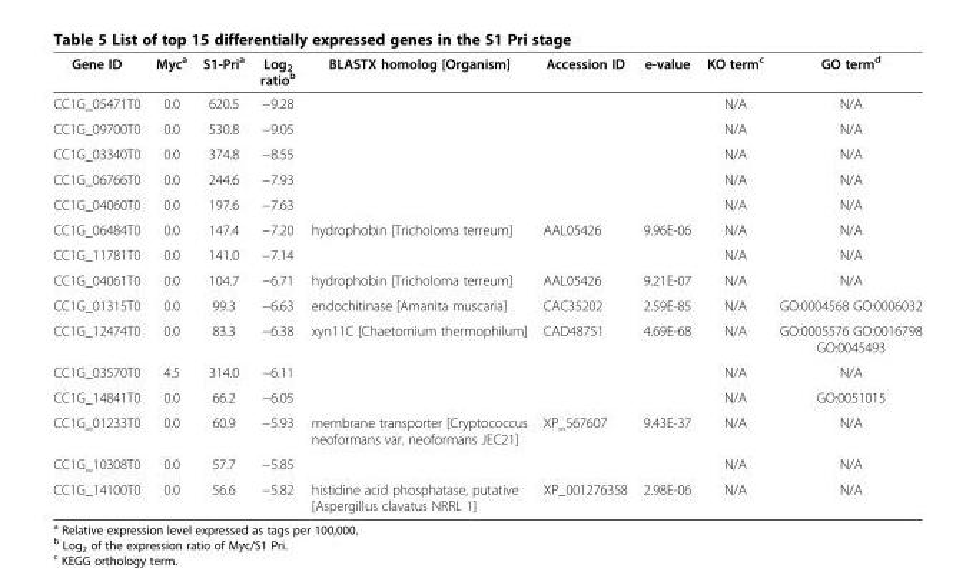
<table><thead><tr><td>Gene ID</td><td>Myc<sup>a</sup></td><td>S1-Pri<sup>a</sup></td><td>Log<sub>2</sub> ratio<sup>b</sup></td><td>BLASTX homolog [Organism]</td><td>Accession ID</td><td>e-value</td><td>KO term<sup>c</sup></td><td>GO term<sup>d</sup></td></tr></thead><tbody><tr><td>CC1G_05471T0</td><td>0.0</td><td>620.5</td><td>−9.28</td><td></td><td></td><td></td><td>N/A</td><td>N/A</td></tr><tr><td>CC1G_09700T0</td><td>0.0</td><td>530.8</td><td>−9.05</td><td></td><td></td><td></td><td>N/A</td><td>N/A</td></tr><tr><td>CC1G_03340T0</td><td>0.0</td><td>374.8</td><td>−8.55</td><td></td><td></td><td></td><td>N/A</td><td>N/A</td></tr><tr><td>CC1G_06766T0</td><td>0.0</td><td>244.6</td><td>−7.93</td><td></td><td></td><td></td><td>N/A</td><td>N/A</td></tr><tr><td>CC1G_04060T0</td><td>0.0</td><td>197.6</td><td>−7.63</td><td></td><td></td><td></td><td>N/A</td><td>N/A</td></tr><tr><td>CC1G_06484T0</td><td>0.0</td><td>147.4</td><td>−7.20</td><td>hydrophobin [Tricholoma terreum]</td><td>AAL05426</td><td>9.96E-06</td><td>N/A</td><td>N/A</td></tr><tr><td>CC1G_11781T0</td><td>0.0</td><td>141.0</td><td>−7.14</td><td></td><td></td><td></td><td>N/A</td><td>N/A</td></tr><tr><td>CC1G_04061T0</td><td>0.0</td><td>104.7</td><td>−6.71</td><td>hydrophobin [Tricholoma terreum]</td><td>AAL05426</td><td>9.21E-07</td><td>N/A</td><td>N/A</td></tr><tr><td>CC1G_01315T0</td><td>0.0</td><td>99.3</td><td>−6.63</td><td>endochitinase [Amanita muscaria]</td><td>CAC35202</td><td>2.59E-85</td><td>N/A</td><td>GO:0004568 GO:0006032</td></tr><tr><td>CC1G_12474T0</td><td>0.0</td><td>83.3</td><td>−6.38</td><td>xyn11C [Chaetomium thermophilum]</td><td>CAD48751</td><td>4.69E-68</td><td>N/A</td><td>GO:0005576 GO:0016798 GO:0045493</td></tr><tr><td>CC1G_03570T0</td><td>4.5</td><td>314.0</td><td>−6.11</td><td></td><td></td><td></td><td>N/A</td><td>N/A</td></tr><tr><td>CC1G_14841T0</td><td>0.0</td><td>66.2</td><td>−6.05</td><td></td><td></td><td></td><td>N/A</td><td>GO:0051015</td></tr><tr><td>CC1G_01233T0</td><td>0.0</td><td>60.9</td><td>−5.93</td><td>membrane transporter [Cryptococcus neoformans var. neoformans JEC21]</td><td>XP_567607</td><td>9.43E-37</td><td>N/A</td><td>N/A</td></tr><tr><td>CC1G_10308T0</td><td>0.0</td><td>57.7</td><td>−5.85</td><td></td><td></td><td></td><td>N/A</td><td>N/A</td></tr><tr><td>CC1G_14100T0</td><td>0.0</td><td>56.6</td><td>−5.82</td><td>histidine acid phosphatase, putative [Aspergillus clavatus NRRL 1]</td><td>XP_001276358</td><td>2.98E-06</td><td>N/A</td><td>N/A</td></tr></tbody></table>